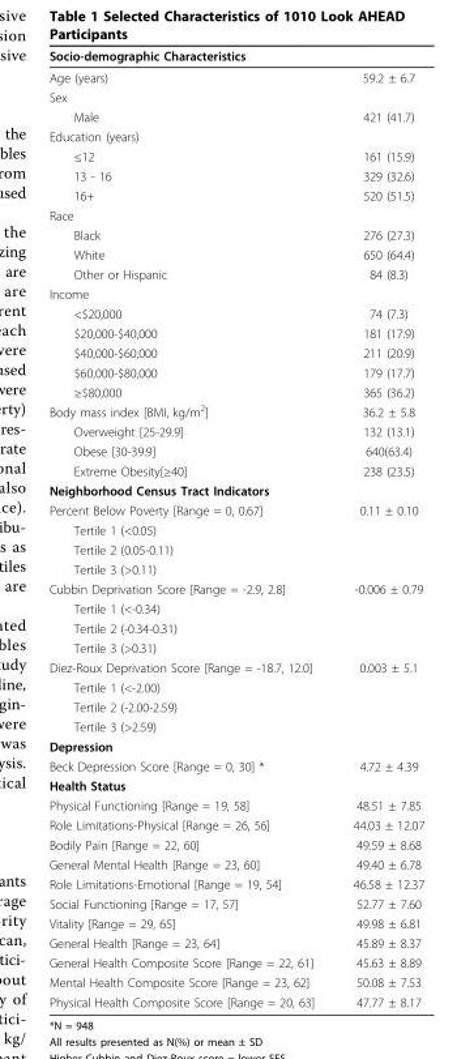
<table><thead><tr><td>Socio-demographic Characteristics</td><td></td></tr></thead><tbody><tr><td>Age (years)</td><td>59.2 ± 6.7</td></tr><tr><td colspan="2">Sex</td></tr><tr><td>Male</td><td>421 (41.7)</td></tr><tr><td colspan="2">Education (years)</td></tr><tr><td>≤12</td><td>161 (15.9)</td></tr><tr><td>13 - 16</td><td>329 (32.6)</td></tr><tr><td>16+</td><td>520 (51.5)</td></tr><tr><td colspan="2">Race</td></tr><tr><td>Black</td><td>276 (27.3)</td></tr><tr><td>White</td><td>650 (64.4)</td></tr><tr><td>Other or Hispanic</td><td>84 (8.3)</td></tr><tr><td colspan="2">Income</td></tr><tr><td>&lt;$20,000</td><td>74 (7.3)</td></tr><tr><td>$20,000-$40,000</td><td>181 (17.9)</td></tr><tr><td>$40,000-$60,000</td><td>211 (20.9)</td></tr><tr><td>$60,000-$80,000</td><td>179 (17.7)</td></tr><tr><td>≥$80,000</td><td>365 (36.2)</td></tr><tr><td>Body mass index [BMI, kg/m<sup>2</sup>]</td><td>36.2 ± 5.8</td></tr><tr><td>Overweight [25-29.9]</td><td>132 (13.1)</td></tr><tr><td>Obese [30-39.9]</td><td>640(63.4)</td></tr><tr><td>Extreme Obesity[≥40]</td><td>238 (23.5)</td></tr><tr><td colspan="2">Neighborhood Census Tract Indicators</td></tr><tr><td>Percent Below Poverty [Range = 0, 0.67]</td><td>0.11 ± 0.10</td></tr><tr><td colspan="2">Tertile 1 (&lt;0.05)</td></tr><tr><td colspan="2">Tertile 2 (0.05-0.11)</td></tr><tr><td colspan="2">Tertile 3 (&gt;0.11)</td></tr><tr><td>Cubbin Deprivation Score [Range = -2.9, 2.8]</td><td>-0.006 ± 0.79</td></tr><tr><td colspan="2">Tertile 1 (&lt;-0.34)</td></tr><tr><td colspan="2">Tertile 2 (-0.34-0.31)</td></tr><tr><td colspan="2">Tertile 3 (&gt;0.31)</td></tr><tr><td>Diez-Roux Deprivation Score [Range = -18.7, 12.0]</td><td>0.003 ± 5.1</td></tr><tr><td colspan="2">Tertile 1 (&lt;-2.00)</td></tr><tr><td colspan="2">Tertile 2 (-2.00-2.59)</td></tr><tr><td colspan="2">Tertile 3 (&gt;2.59)</td></tr><tr><td colspan="2">Depression</td></tr><tr><td>Beck Depression Score [Range = 0, 30] *</td><td>4.72 ± 4.39</td></tr><tr><td colspan="2">Health Status</td></tr><tr><td>Physical Functioning [Range = 19, 58]</td><td>48.51 ± 7.85</td></tr><tr><td>Role Limitations-Physical [Range = 26, 56]</td><td>44.03 ± 12.07</td></tr><tr><td>Bodily Pain [Range = 22, 60]</td><td>49.59 ± 8.68</td></tr><tr><td>General Mental Health [Range = 23, 60]</td><td>49.40 ± 6.78</td></tr><tr><td>Role Limitations-Emotional [Range = 19, 54]</td><td>46.58 ± 12.37</td></tr><tr><td>Social Functioning [Range = 17, 57]</td><td>52.77 ± 7.60</td></tr><tr><td>Vitality [Range = 29, 65]</td><td>49.98 ± 6.81</td></tr><tr><td>General Health [Range = 23, 64]</td><td>45.89 ± 8.37</td></tr><tr><td>General Health Composite Score [Range = 22, 61]</td><td>45.63 ± 8.89</td></tr><tr><td>Mental Health Composite Score [Range = 23, 62]</td><td>50.08 ± 7.53</td></tr><tr><td>Physical Health Composite Score [Range = 20, 63]</td><td>47.77 ± 8.17</td></tr></tbody></table>